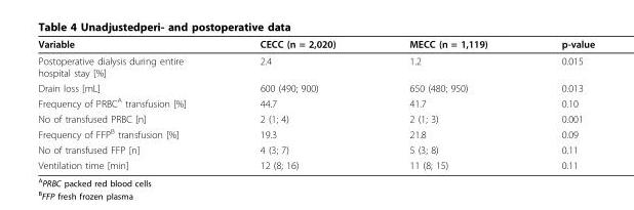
<table><thead><tr><td>Variable</td><td>CECC (n = 2,020)</td><td>MECC (n = 1,119)</td><td>p-value</td></tr></thead><tbody><tr><td>Postoperative dialysis during entire hospital stay [%]</td><td>2.4</td><td>1.2</td><td>0.015</td></tr><tr><td>Drain loss [mL]</td><td>600 (490; 900)</td><td>650 (480; 950)</td><td>0.013</td></tr><tr><td>Frequency of PRBC<sup>A</sup> transfusion [%]</td><td>44.7</td><td>41.7</td><td>0.10</td></tr><tr><td>No of transfused PRBC [n]</td><td>2 (1; 4)</td><td>2 (1; 3)</td><td>0.001</td></tr><tr><td>Frequency of FFP<sup>B</sup> transfusion [%]</td><td>19.3</td><td>21.8</td><td>0.09</td></tr><tr><td>No of transfused FFP [n]</td><td>4 (3; 7)</td><td>5 (3; 8)</td><td>0.11</td></tr><tr><td>Ventilation time [min]</td><td>12 (8; 16)</td><td>11 (8; 15)</td><td>0.11</td></tr></tbody></table>